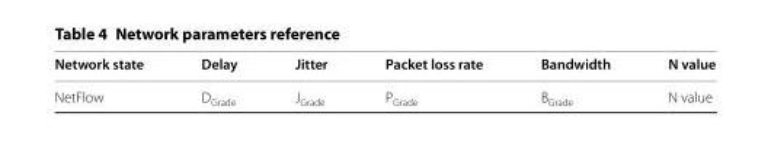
<table><thead><tr><td>Network state</td><td>Delay</td><td>Jitter</td><td>Packet loss rate</td><td>Bandwidth</td><td>N value</td></tr></thead><tbody><tr><td>NetFlow</td><td>D<sub>Grade</sub></td><td>J<sub>Grade</sub></td><td>P<sub>Grade</sub></td><td>B<sub>Grade</sub></td><td>N value</td></tr></tbody></table>